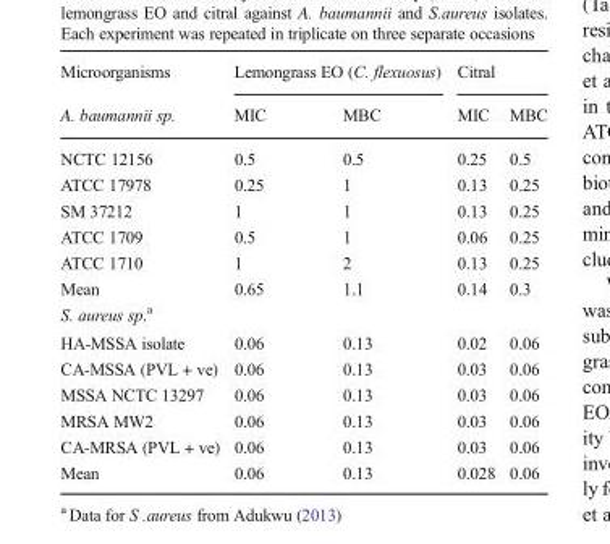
<table><thead><tr><td rowspan="2">Microorganisms A. baumannii sp.</td><td colspan="2">Lemongrass EO (C. flexuosus)</td><td colspan="2">Citral</td></tr><tr><td>MIC</td><td>MBC</td><td>MIC</td><td>MBC</td></tr></thead><tbody><tr><td>NCTC 12156</td><td>0.5</td><td>0.5</td><td>0.25</td><td>0.5</td></tr><tr><td>ATCC 17978</td><td>0.25</td><td>1</td><td>0.13</td><td>0.25</td></tr><tr><td>SM 37212</td><td>1</td><td>1</td><td>0.13</td><td>0.25</td></tr><tr><td>ATCC 1709</td><td>0.5</td><td>1</td><td>0.06</td><td>0.25</td></tr><tr><td>ATCC 1710</td><td>1</td><td>2</td><td>0.13</td><td>0.25</td></tr><tr><td>Mean</td><td>0.65</td><td>1.1</td><td>0.14</td><td>0.3</td></tr><tr><td colspan="5">S. aureus sp.<sup>a</sup></td></tr><tr><td>HA-MSSA isolate</td><td>0.06</td><td>0.13</td><td>0.02</td><td>0.06</td></tr><tr><td>CA-MSSA (PVL + ve)</td><td>0.06</td><td>0.13</td><td>0.03</td><td>0.06</td></tr><tr><td>MSSA NCTC 13297</td><td>0.06</td><td>0.13</td><td>0.03</td><td>0.06</td></tr><tr><td>MRSA MW2</td><td>0.06</td><td>0.13</td><td>0.03</td><td>0.06</td></tr><tr><td>CA-MRSA (PVL + ve)</td><td>0.06</td><td>0.13</td><td>0.03</td><td>0.06</td></tr><tr><td>Mean</td><td>0.06</td><td>0.13</td><td>0.028</td><td>0.06</td></tr></tbody></table>